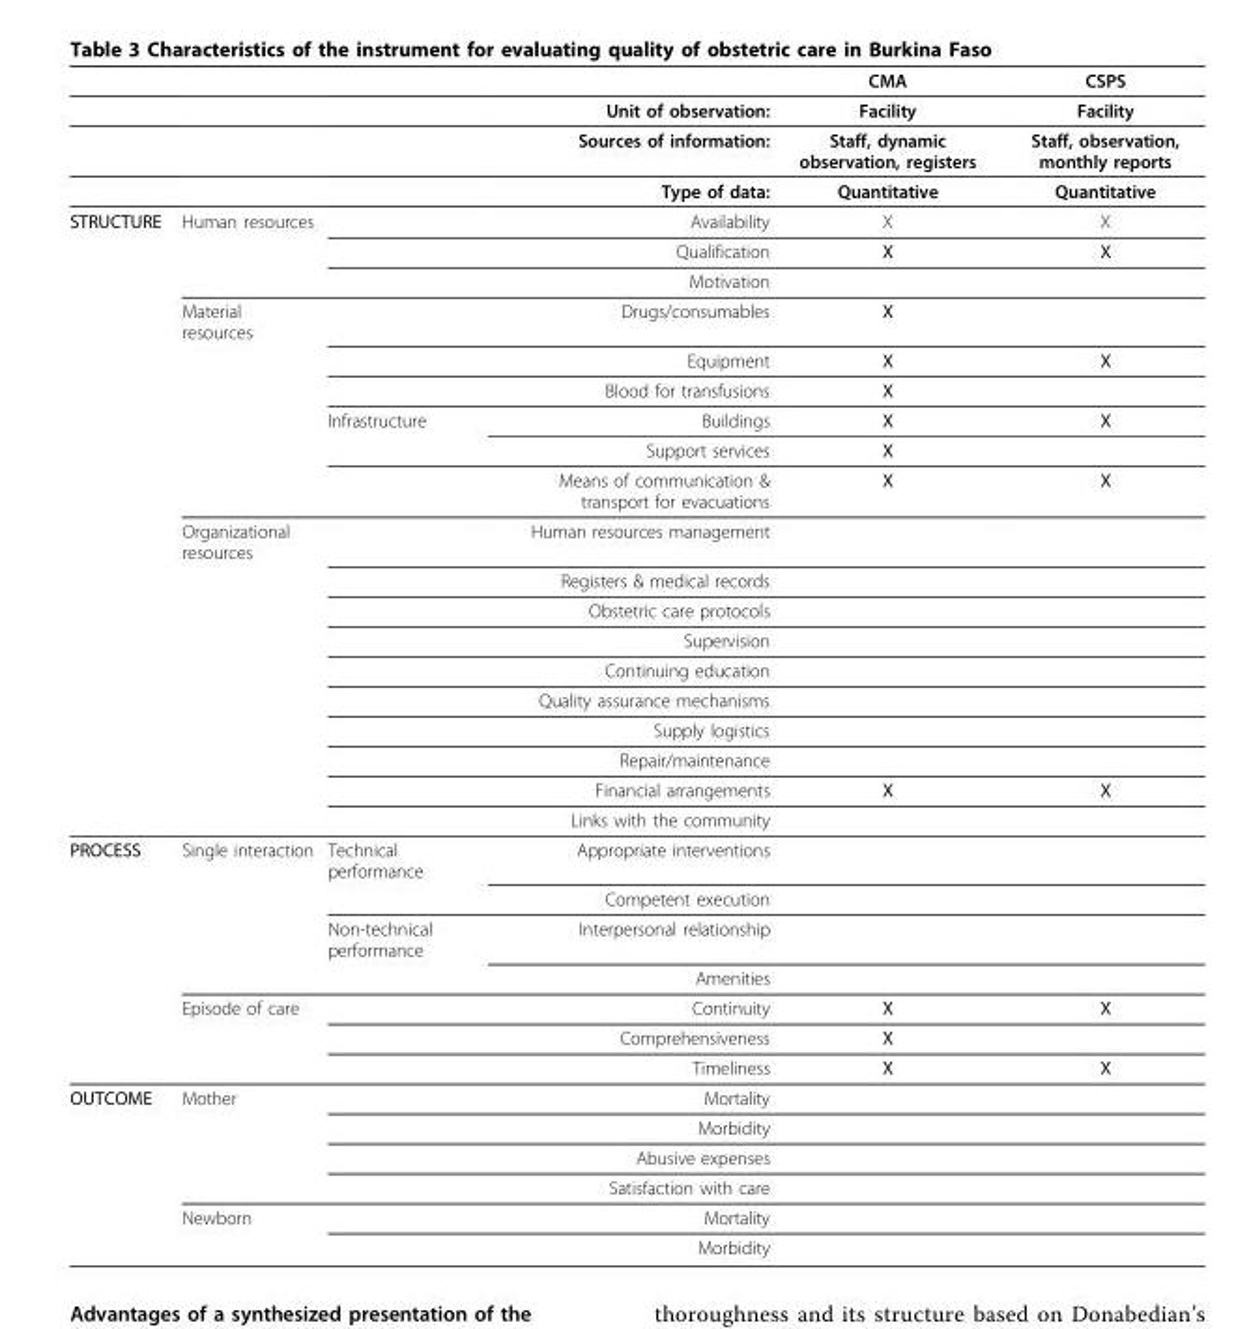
<table><thead><tr><td></td><td></td><td></td><td></td><td>CMA</td><td>CSPS</td></tr></thead><tbody><tr><td></td><td></td><td></td><td>Unit of observation:</td><td>Facility</td><td>Facility</td></tr><tr><td></td><td></td><td></td><td>Sources of information:</td><td>Staff, dynamic observation, registers</td><td>Staff, observation, monthly reports</td></tr><tr><td></td><td></td><td></td><td>Type of data:</td><td>Quantitative</td><td>Quantitative</td></tr><tr><td rowspan="19">STRUCTURE</td><td>Human resources</td><td></td><td>Availability</td><td>X</td><td>X</td></tr><tr><td></td><td></td><td>Qualification</td><td>X</td><td>X</td></tr><tr><td></td><td></td><td>Motivation</td><td></td><td></td></tr><tr><td>Material resources</td><td></td><td>Drugs/consumables</td><td>X</td><td></td></tr><tr><td></td><td></td><td>Equipment</td><td>X</td><td>X</td></tr><tr><td></td><td></td><td>Blood for transfusions</td><td>X</td><td></td></tr><tr><td></td><td>Infrastructure</td><td>Buildings</td><td>X</td><td>X</td></tr><tr><td></td><td></td><td>Support services</td><td>X</td><td></td></tr><tr><td></td><td></td><td>Means of communication &amp; transport for evacuations</td><td>X</td><td>X</td></tr><tr><td>Organizational resources</td><td></td><td>Human resources management</td><td></td><td></td></tr><tr><td></td><td></td><td>Registers &amp; medical records</td><td></td><td></td></tr><tr><td></td><td></td><td>Obstetric care protocols</td><td></td><td></td></tr><tr><td></td><td></td><td>Supervision</td><td></td><td></td></tr><tr><td></td><td></td><td>Continuing education</td><td></td><td></td></tr><tr><td></td><td></td><td>Quality assurance mechanisms</td><td></td><td></td></tr><tr><td></td><td></td><td>Supply logistics</td><td></td><td></td></tr><tr><td></td><td></td><td>Repair/maintenance</td><td></td><td></td></tr><tr><td></td><td></td><td>Financial arrangements</td><td>X</td><td>X</td></tr><tr><td></td><td></td><td>Links with the community</td><td></td><td></td></tr><tr><td rowspan="7">PROCESS</td><td>Single interaction</td><td>Technical performance</td><td>Appropriate interventions</td><td></td><td></td></tr><tr><td></td><td></td><td>Competent execution</td><td></td><td></td></tr><tr><td></td><td>Non-technical performance</td><td>Interpersonal relationship</td><td></td><td></td></tr><tr><td></td><td></td><td>Amenities</td><td></td><td></td></tr><tr><td>Episode of care</td><td></td><td>Continuity</td><td>X</td><td>X</td></tr><tr><td></td><td></td><td>Comprehensiveness</td><td>X</td><td></td></tr><tr><td></td><td></td><td>Timeliness</td><td>X</td><td>X</td></tr><tr><td rowspan="6">OUTCOME</td><td>Mother</td><td></td><td>Mortality</td><td></td><td></td></tr><tr><td></td><td></td><td>Morbidity</td><td></td><td></td></tr><tr><td></td><td></td><td>Abusive expenses</td><td></td><td></td></tr><tr><td></td><td></td><td>Satisfaction with care</td><td></td><td></td></tr><tr><td>Newborn</td><td></td><td>Mortality</td><td></td><td></td></tr><tr><td></td><td></td><td>Morbidity</td><td></td><td></td></tr></tbody></table>